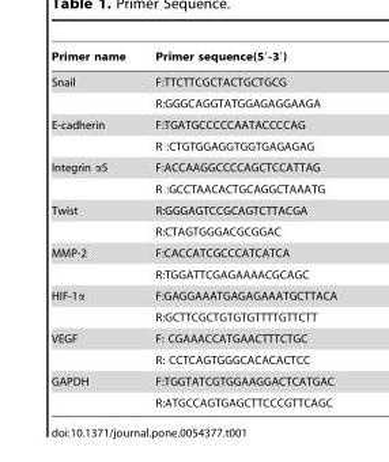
<table><thead><tr><td>Primer name</td><td>Primer sequence(5′-3′)</td></tr></thead><tbody><tr><td rowspan="2">Snail</td><td>F:TTCTTCGCTACTGCTGCG</td></tr><tr><td>R:GGGCAGGTATGGAGAGGAAGA</td></tr><tr><td rowspan="2">E-cadherin</td><td>F:TGATGCCCCCAATACCCCAG</td></tr><tr><td>R :CTGTGGAGGTGGTGAGAGAG</td></tr><tr><td rowspan="2">Integrin α5</td><td>F:ACCAAGGCCCCAGCTCCATTAG</td></tr><tr><td>R :GCCTAACACTGCAGGCTAAATG</td></tr><tr><td rowspan="2">Twist</td><td>R:GGGAGTCCGCAGTCTTACGA</td></tr><tr><td>R:CTAGTGGGACGCGGAC</td></tr><tr><td rowspan="2">MMP-2</td><td>F:CACCATCGCCCATCATCA</td></tr><tr><td>R:TGGATTCGAGAAAACGCAGC</td></tr><tr><td rowspan="2">HIF-1α</td><td>F:GAGGAAATGAGAGAAATGCTTACA</td></tr><tr><td>R:GCTTCGCTGTGTGTTTTGTTCTT</td></tr><tr><td rowspan="2">VEGF</td><td>F: CGAAACCATGAACTTTCTGC</td></tr><tr><td>R: CCTCAGTGGGCACACACTCC</td></tr><tr><td rowspan="2">GAPDH</td><td>F:TGGTATCGTGGAAGGACTCATGAC</td></tr><tr><td>R:ATGCCAGTGAGCTTCCCGTTCAGC</td></tr></tbody></table>